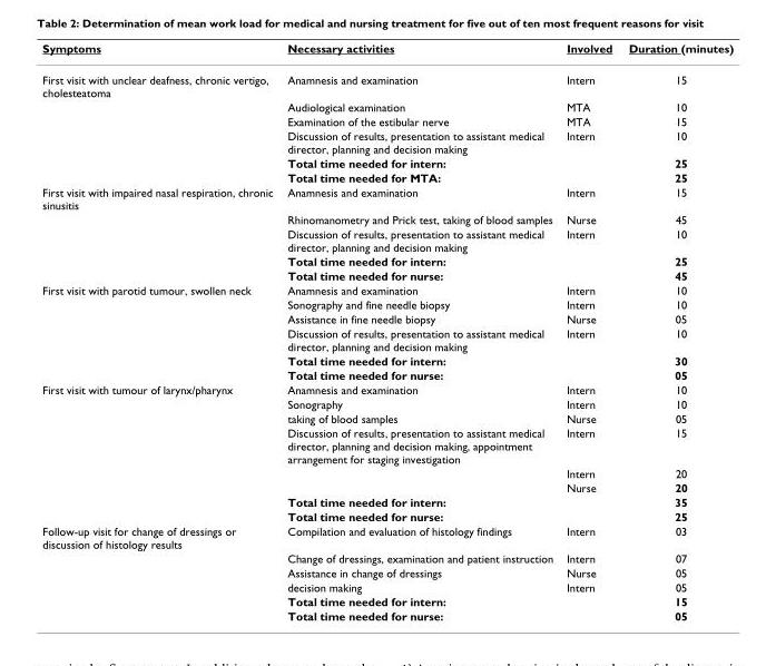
<table><thead><tr><td>Symptoms</td><td>Necessary activities</td><td>Involved</td><td>Duration (minutes)</td></tr></thead><tbody><tr><td rowspan="6">First visit with unclear deafness, chronic vertigo, cholesteatoma</td><td>Anamnesis and examination</td><td>Intern</td><td>15</td></tr><tr><td>Audiological examination</td><td>MTA</td><td>10</td></tr><tr><td>Examination of the estibular nerve</td><td>MTA</td><td>15</td></tr><tr><td>Discussion of results, presentation to assistant medical director, planning and decision making</td><td>Intern</td><td>10</td></tr><tr><td>Total time needed for intern:</td><td></td><td>25</td></tr><tr><td>Total time needed for MTA:</td><td></td><td>25</td></tr><tr><td rowspan="5">First visit with impaired nasal respiration, chronic sinusitis</td><td>Anamnesis and examination</td><td>Intern</td><td>15</td></tr><tr><td>Rhinomanometry and Prick test, taking of blood samples</td><td>Nurse</td><td>45</td></tr><tr><td>Discussion of results, presentation to assistant medical director, planning and decision making</td><td>Intern</td><td>10</td></tr><tr><td>Total time needed for intern:</td><td></td><td>25</td></tr><tr><td>Total time needed for nurse:</td><td></td><td>45</td></tr><tr><td rowspan="6">First visit with parotid tumour, swollen neck</td><td>Anamnesis and examination</td><td>Intern</td><td>10</td></tr><tr><td>Sonography and fine needle biopsy</td><td>Intern</td><td>10</td></tr><tr><td>Assistance in fine needle biopsy</td><td>Nurse</td><td>05</td></tr><tr><td>Discussion of results, presentation to assistant medical director, planning and decision making</td><td>Intern</td><td>10</td></tr><tr><td>Total time needed for intern:</td><td></td><td>30</td></tr><tr><td>Total time needed for nurse:</td><td></td><td>05</td></tr><tr><td rowspan="8">First visit with tumour of larynx/pharynx</td><td>Anamnesis and examination</td><td>Intern</td><td>10</td></tr><tr><td>Sonography</td><td>Intern</td><td>10</td></tr><tr><td>taking of blood samples</td><td>Nurse</td><td>05</td></tr><tr><td>Discussion of results, presentation to assistant medical director, planning and decision making, appointment arrangement for staging investigation</td><td>Intern</td><td>15</td></tr><tr><td></td><td>Intern</td><td>20</td></tr><tr><td></td><td>Nurse</td><td>20</td></tr><tr><td>Total time needed for intern:</td><td></td><td>35</td></tr><tr><td>Total time needed for nurse:</td><td></td><td>25</td></tr><tr><td rowspan="6">Follow-up visit for change of dressings or discussion of histology results</td><td>Compilation and evaluation of histology findings</td><td>Intern</td><td>03</td></tr><tr><td>Change of dressings, examination and patient instruction</td><td>Intern</td><td>07</td></tr><tr><td>Assistance in change of dressings</td><td>Nurse</td><td>05</td></tr><tr><td>decision making</td><td>Intern</td><td>05</td></tr><tr><td>Total time needed for intern:</td><td></td><td>15</td></tr><tr><td>Total time needed for nurse:</td><td></td><td>05</td></tr></tbody></table>